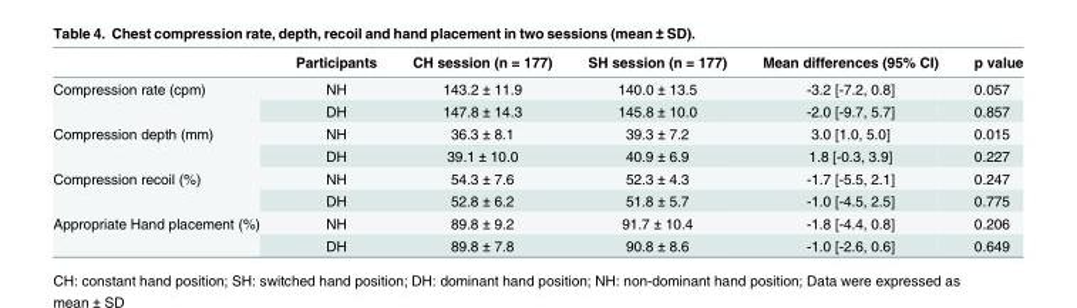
<table><thead><tr><td></td><td>Participants</td><td>CH session (n = 177)</td><td>SH session (n = 177)</td><td>Mean differences (95% CI)</td><td>p value</td></tr></thead><tbody><tr><td rowspan="2">Compression rate (cpm)</td><td>NH</td><td>143.2 ± 11.9</td><td>140.0 ± 13.5</td><td>-3.2 [-7.2, 0.8]</td><td>0.057</td></tr><tr><td>DH</td><td>147.8 ± 14.3</td><td>145.8 ± 10.0</td><td>-2.0 [-9.7, 5.7]</td><td>0.857</td></tr><tr><td rowspan="2">Compression depth (mm)</td><td>NH</td><td>36.3 ± 8.1</td><td>39.3 ± 7.2</td><td>3.0 [1.0, 5.0]</td><td>0.015</td></tr><tr><td>DH</td><td>39.1 ± 10.0</td><td>40.9 ± 6.9</td><td>1.8 [-0.3, 3.9]</td><td>0.227</td></tr><tr><td rowspan="2">Compression recoil (%)</td><td>NH</td><td>54.3 ± 7.6</td><td>52.3 ± 4.3</td><td>-1.7 [-5.5, 2.1]</td><td>0.247</td></tr><tr><td>DH</td><td>52.8 ± 6.2</td><td>51.8 ± 5.7</td><td>-1.0 [-4.5, 2.5]</td><td>0.775</td></tr><tr><td rowspan="2">Appropriate Hand placement (%)</td><td>NH</td><td>89.8 ± 9.2</td><td>91.7 ± 10.4</td><td>-1.8 [-4.4, 0.8]</td><td>0.206</td></tr><tr><td>DH</td><td>89.8 ± 7.8</td><td>90.8 ± 8.6</td><td>-1.0 [-2.6, 0.6]</td><td>0.649</td></tr></tbody></table>